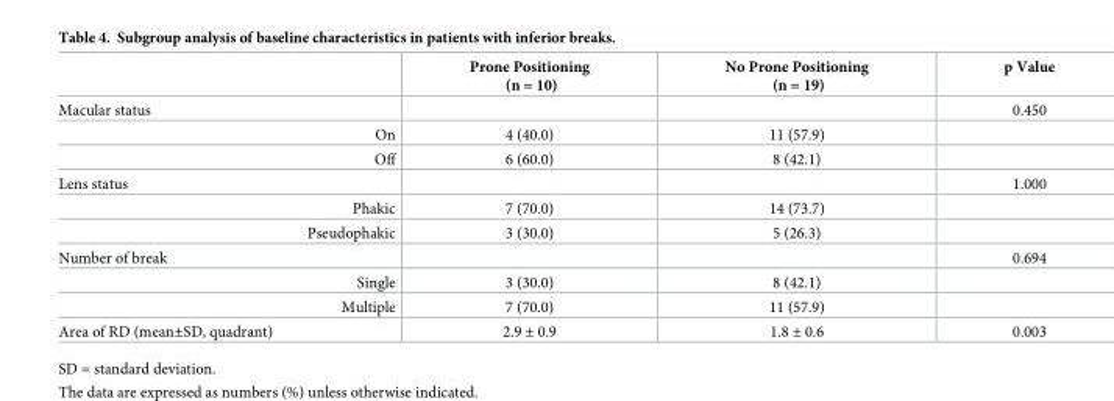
<table><thead><tr><td></td><td>Prone Positioning (n = 10)</td><td>No Prone Positioning (n = 19)</td><td>p Value</td></tr></thead><tbody><tr><td>Macular status</td><td></td><td></td><td>0.450</td></tr><tr><td>On</td><td>4 (40.0)</td><td>11 (57.9)</td><td></td></tr><tr><td>Off</td><td>6 (60.0)</td><td>8 (42.1)</td><td></td></tr><tr><td>Lens status</td><td></td><td></td><td>1.000</td></tr><tr><td>Phakic</td><td>7 (70.0)</td><td>14 (73.7)</td><td></td></tr><tr><td>Pseudophakic</td><td>3 (30.0)</td><td>5 (26.3)</td><td></td></tr><tr><td>Number of break</td><td></td><td></td><td>0.694</td></tr><tr><td>Single</td><td>3 (30.0)</td><td>8 (42.1)</td><td></td></tr><tr><td>Multiple</td><td>7 (70.0)</td><td>11 (57.9)</td><td></td></tr><tr><td>Area of RD (mean±SD, quadrant)</td><td>2.9 ± 0.9</td><td>1.8 ± 0.6</td><td>0.003</td></tr></tbody></table>